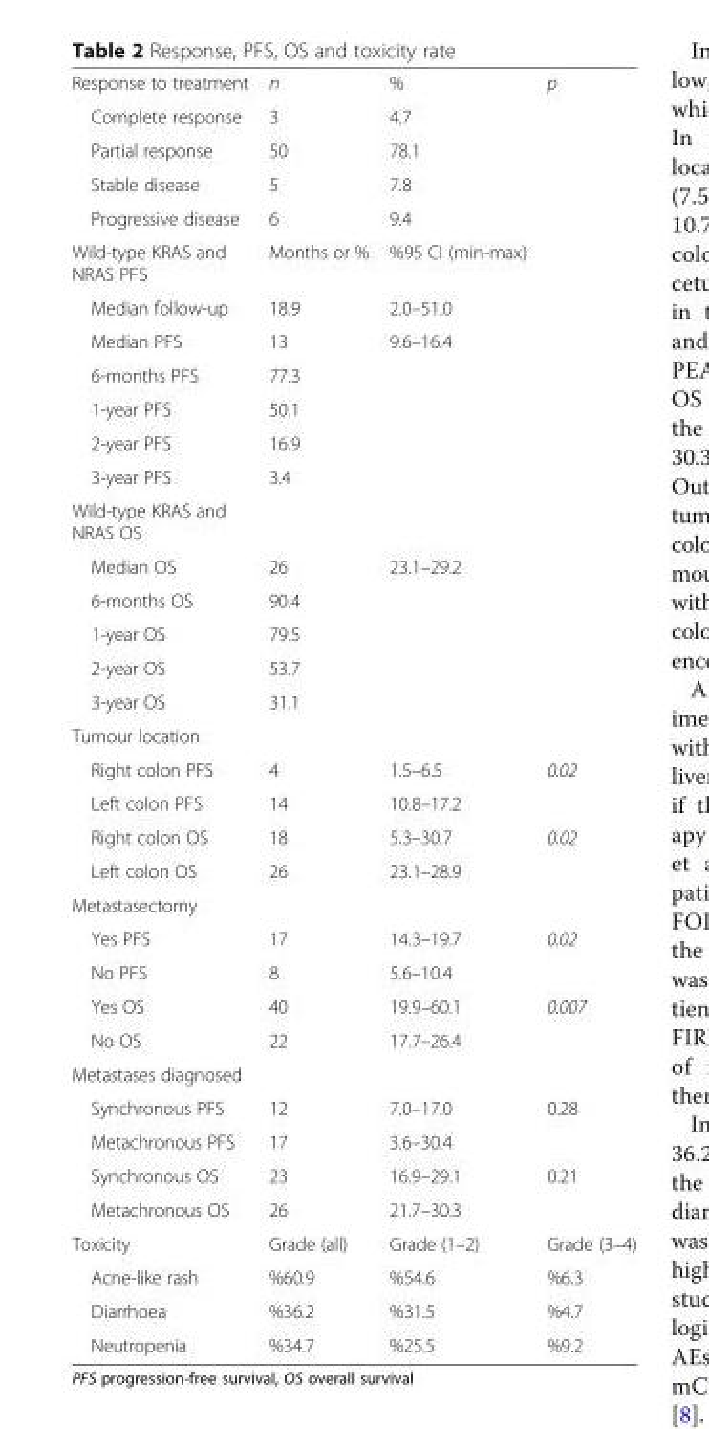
<table><tbody><tr><td>Response to treatment</td><td>n</td><td>%</td><td>p</td></tr><tr><td>Complete response</td><td>3</td><td>4.7</td><td></td></tr><tr><td>Partial response</td><td>50</td><td>78.1</td><td></td></tr><tr><td>Stable disease</td><td>5</td><td>7.8</td><td></td></tr><tr><td>Progressive disease</td><td>6</td><td>9.4</td><td></td></tr><tr><td>Wild-type KRAS and NRAS PFS</td><td>Months or %</td><td>%95 CI (min-max)</td><td></td></tr><tr><td>Median follow-up</td><td>18.9</td><td>2.0–51.0</td><td></td></tr><tr><td>Median PFS</td><td>13</td><td>9.6–16.4</td><td></td></tr><tr><td>6-months PFS</td><td>77.3</td><td></td><td></td></tr><tr><td>1-year PFS</td><td>50.1</td><td></td><td></td></tr><tr><td>2-year PFS</td><td>16.9</td><td></td><td></td></tr><tr><td>3-year PFS</td><td>3.4</td><td></td><td></td></tr><tr><td colspan="4">Wild-type KRAS and NRAS OS</td></tr><tr><td>Median OS</td><td>26</td><td>23.1–29.2</td><td></td></tr><tr><td>6-months OS</td><td>90.4</td><td></td><td></td></tr><tr><td>1-year OS</td><td>79.5</td><td></td><td></td></tr><tr><td>2-year OS</td><td>53.7</td><td></td><td></td></tr><tr><td>3-year OS</td><td>31.1</td><td></td><td></td></tr><tr><td colspan="4">Tumour location</td></tr><tr><td>Right colon PFS</td><td>4</td><td>1.5–6.5</td><td>0.02</td></tr><tr><td>Left colon PFS</td><td>14</td><td>10.8–17.2</td><td></td></tr><tr><td>Right colon OS</td><td>18</td><td>5.3–30.7</td><td>0.02</td></tr><tr><td>Left colon OS</td><td>26</td><td>23.1–28.9</td><td></td></tr><tr><td colspan="4">Metastasectomy</td></tr><tr><td>Yes PFS</td><td>17</td><td>14.3–19.7</td><td>0.02</td></tr><tr><td>No PFS</td><td>8</td><td>5.6–10.4</td><td></td></tr><tr><td>Yes OS</td><td>40</td><td>19.9–60.1</td><td>0.007</td></tr><tr><td>No OS</td><td>22</td><td>17.7–26.4</td><td></td></tr><tr><td colspan="4">Metastases diagnosed</td></tr><tr><td>Synchronous PFS</td><td>12</td><td>7.0–17.0</td><td>0.28</td></tr><tr><td>Metachronous PFS</td><td>17</td><td>3.6–30.4</td><td></td></tr><tr><td>Synchronous OS</td><td>23</td><td>16.9–29.1</td><td>0.21</td></tr><tr><td>Metachronous OS</td><td>26</td><td>21.7–30.3</td><td></td></tr><tr><td>Toxicity</td><td>Grade (all)</td><td>Grade (1–2)</td><td>Grade (3–4)</td></tr><tr><td>Acne-like rash</td><td>%60.9</td><td>%54.6</td><td>%6.3</td></tr><tr><td>Diarrhoea</td><td>%36.2</td><td>%31.5</td><td>%4.7</td></tr><tr><td>Neutropenia</td><td>%34.7</td><td>%25.5</td><td>%9.2</td></tr></tbody></table>